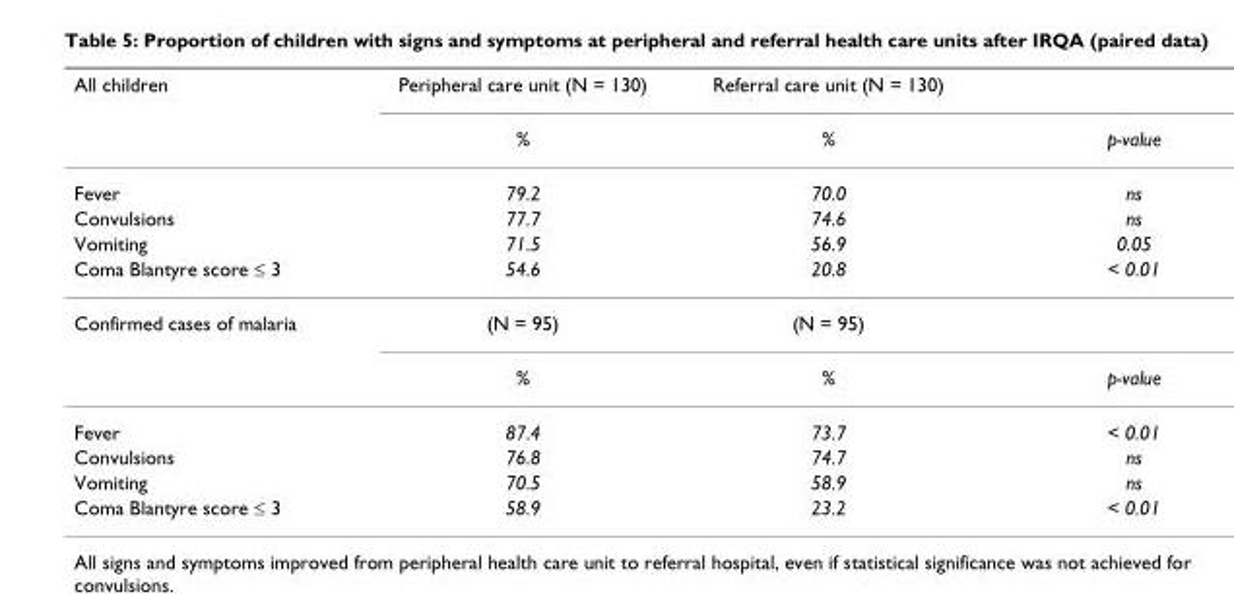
<table><thead><tr><td rowspan="2">All children</td><td rowspan="2">Peripheral care unit (N = 130) %</td><td rowspan="2">Referral care unit (N = 130) %</td><td rowspan="2">p-value</td></tr><tr></tr></thead><tbody><tr><td>Fever</td><td>79.2</td><td>70.0</td><td>ns</td></tr><tr><td>Convulsions</td><td>77.7</td><td>74.6</td><td>ns</td></tr><tr><td>Vomiting</td><td>71.5</td><td>56.9</td><td>0.05</td></tr><tr><td>Coma Blantyre score ≤ 3</td><td>54.6</td><td>20.8</td><td>&lt; 0.01</td></tr><tr><td rowspan="2">Confirmed cases of malaria</td><td>(N = 95)</td><td>(N = 95)</td><td></td></tr><tr><td>%</td><td>%</td><td>p-value</td></tr><tr><td>Fever</td><td>87.4</td><td>73.7</td><td>&lt; 0.01</td></tr><tr><td>Convulsions</td><td>76.8</td><td>74.7</td><td>ns</td></tr><tr><td>Vomiting</td><td>70.5</td><td>58.9</td><td>ns</td></tr><tr><td>Coma Blantyre score ≤ 3</td><td>58.9</td><td>23.2</td><td>&lt; 0.01</td></tr></tbody></table>